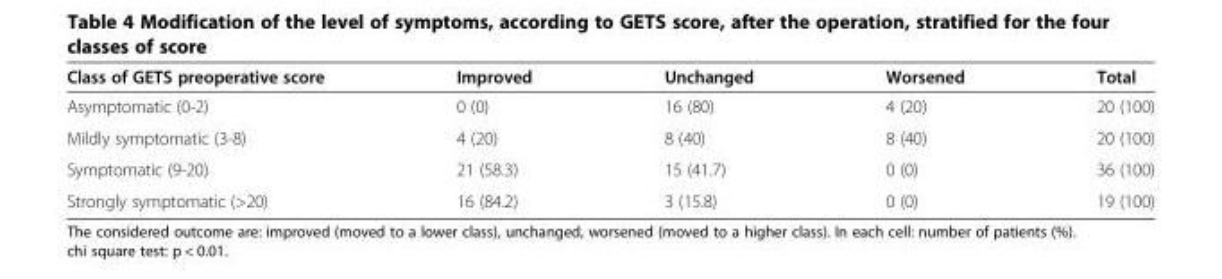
<table><thead><tr><td>Class of GETS preoperative score</td><td>Improved</td><td>Unchanged</td><td>Worsened</td><td>Total</td></tr></thead><tbody><tr><td>Asymptomatic (0-2)</td><td>0 (0)</td><td>16 (80)</td><td>4 (20)</td><td>20 (100)</td></tr><tr><td>Mildly symptomatic (3-8)</td><td>4 (20)</td><td>8 (40)</td><td>8 (40)</td><td>20 (100)</td></tr><tr><td>Symptomatic (9-20)</td><td>21 (58.3)</td><td>15 (41.7)</td><td>0 (0)</td><td>36 (100)</td></tr><tr><td>Strongly symptomatic (&gt;20)</td><td>16 (84.2)</td><td>3 (15.8)</td><td>0 (0)</td><td>19 (100)</td></tr></tbody></table>